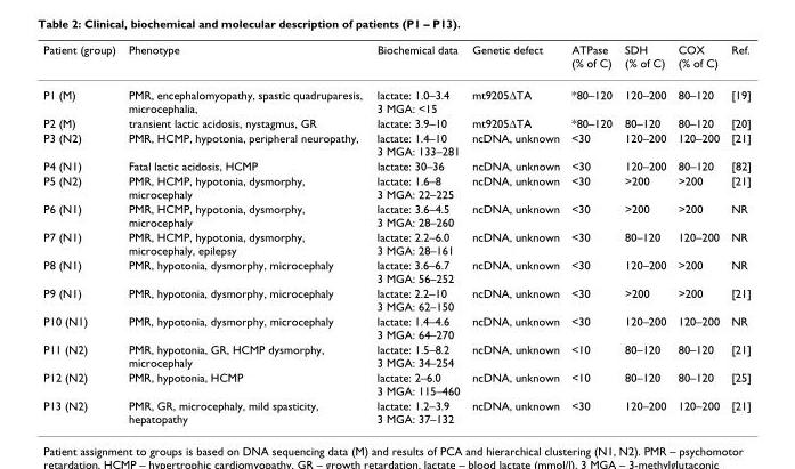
<table><thead><tr><td>Patient (group)</td><td>Phenotype</td><td>Biochemical data</td><td>Genetic defect</td><td>ATPase (% of C)</td><td>SDH (% of C)</td><td>COX (% of C)</td><td>Ref.</td></tr></thead><tbody><tr><td>P1 (M)</td><td>PMR, encephalomyopathy, spastic quadruparesis, microcephalia,</td><td>lactate: 1.0–3.4 3 MGA: &lt;15</td><td>mt9205ΔTA</td><td>*80–120</td><td>120–200</td><td>80–120</td><td>[19]</td></tr><tr><td>P2 (M)</td><td>transient lactic acidosis, nystagmus, GR</td><td>lactate: 3.9–10</td><td>mt9205ΔTA</td><td>*80–120</td><td>80–120</td><td>80–120</td><td>[20]</td></tr><tr><td>P3 (N2)</td><td>PMR, HCMP, hypotonia, peripheral neuropathy,</td><td>lactate: 1.4–10 3 MGA: 133–281</td><td>ncDNA, unknown</td><td>&lt;30</td><td>120–200</td><td>120–200</td><td>[21]</td></tr><tr><td>P4 (N1)</td><td>Fatal lactic acidosis, HCMP</td><td>lactate: 30–36</td><td>ncDNA, unknown</td><td>&lt;30</td><td>120–200</td><td>80–120</td><td>[82]</td></tr><tr><td>P5 (N2)</td><td>PMR, HCMP, hypotonia, dysmorphy, microcephaly</td><td>lactate: 1.6–8 3 MGA: 22–225</td><td>ncDNA, unknown</td><td>&lt;30</td><td>&gt;200</td><td>&gt;200</td><td>[21]</td></tr><tr><td>P6 (N1)</td><td>PMR, HCMP, hypotonia, dysmorphy, microcephaly</td><td>lactate: 3.6–4.5 3 MGA: 28–260</td><td>ncDNA, unknown</td><td>&lt;30</td><td>&gt;200</td><td>&gt;200</td><td>NR</td></tr><tr><td>P7 (N1)</td><td>PMR, HCMP, hypotonia, dysmorphy, microcephaly, epilepsy</td><td>lactate: 2.2–6.0 3 MGA: 28–161</td><td>ncDNA, unknown</td><td>&lt;30</td><td>80–120</td><td>120–200</td><td>NR</td></tr><tr><td>P8 (N1)</td><td>PMR, hypotonia, dysmorphy, microcephaly</td><td>lactate: 3.6–6.7 3 MGA: 56–252</td><td>ncDNA, unknown</td><td>&lt;30</td><td>120–200</td><td>&gt;200</td><td>NR</td></tr><tr><td>P9 (N1)</td><td>PMR, hypotonia, dysmorphy, microcephaly</td><td>lactate: 2.2–10 3 MGA: 62–150</td><td>ncDNA, unknown</td><td>&lt;30</td><td>&gt;200</td><td>&gt;200</td><td>[21]</td></tr><tr><td>P10 (N1)</td><td>PMR, hypotonia, dysmorphy, microcephaly</td><td>lactate: 1.4–4.6 3 MGA: 64–270</td><td>ncDNA, unknown</td><td>&lt;30</td><td>120–200</td><td>120–200</td><td>NR</td></tr><tr><td>P11 (N2)</td><td>PMR, hypotonia, GR, HCMP dysmorphy, microcephaly</td><td>lactate: 1.5–8.2 3 MGA: 34–254</td><td>ncDNA, unknown</td><td>&lt;10</td><td>80–120</td><td>80–120</td><td>[21]</td></tr><tr><td>P12 (N2)</td><td>PMR, hypotonia, HCMP</td><td>lactate: 2–6.0 3 MGA: 115–460</td><td>ncDNA, unknown</td><td>&lt;10</td><td>80–120</td><td>80–120</td><td>[25]</td></tr><tr><td>P13 (N2)</td><td>PMR, GR, microcephaly, mild spasticity, hepatopathy</td><td>lactate: 1.2–3.9 3 MGA: 37–132</td><td>ncDNA, unknown</td><td>&lt;30</td><td>120–200</td><td>120–200</td><td>[21]</td></tr></tbody></table>